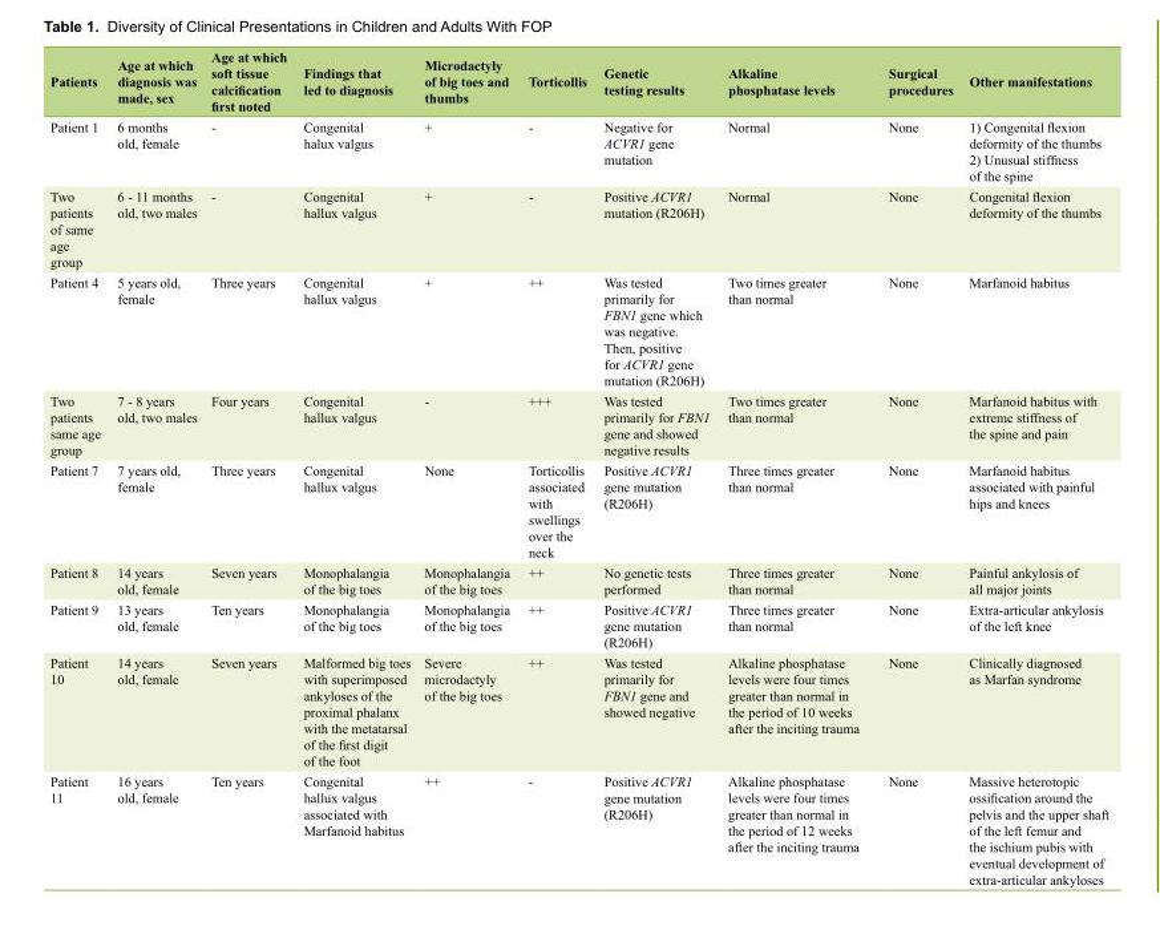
<table><thead><tr><td>Patients</td><td>Age at which diagnosis was made, sex</td><td>Age at which soft tissue calcification first noted</td><td>Findings that led to diagnosis</td><td>Microdactyly of big toes and thumbs</td><td>Torticollis</td><td>Genetic testing results</td><td>Alkaline phosphatase levels</td><td>Surgical procedures</td><td>Other manifestations</td></tr></thead><tbody><tr><td>Patient 1</td><td>6 months old, female</td><td>-</td><td>Congenital halux valgus</td><td>+</td><td>-</td><td>Negative for ACVR1 gene mutation</td><td>Normal</td><td>None</td><td>1) Congenital flexion deformity of the thumbs 2) Unusual stiffness of the spine</td></tr><tr><td>Two patients of same age group</td><td>6 - 11 months old, two males</td><td>-</td><td>Congenital hallux valgus</td><td>+</td><td>-</td><td>Positive ACVR1 mutation (R206H)</td><td>Normal</td><td>None</td><td>Congenital flexion deformity of the thumbs</td></tr><tr><td>Patient 4</td><td>5 years old, female</td><td>Three years</td><td>Congenital hallux valgus</td><td>+</td><td>++</td><td>Was tested primarily for FBN1 gene which was negative. Then, positive for ACVR1 gene mutation (R206H)</td><td>Two times greater than normal</td><td>None</td><td>Marfanoid habitus</td></tr><tr><td>Two patients same age group</td><td>7 - 8 years old, two males</td><td>Four years</td><td>Congenital hallux valgus</td><td>-</td><td>+++</td><td>Was tested primarily for FBN1 gene and showed negative results</td><td>Two times greater than normal</td><td>None</td><td>Marfanoid habitus with extreme stiffness of the spine and pain</td></tr><tr><td>Patient 7</td><td>7 years old, female</td><td>Three years</td><td>Congenital hallux valgus</td><td>None</td><td>Torticollis associated with swellings over the neck</td><td>Positive ACVR1 gene mutation (R206H)</td><td>Three times greater than normal</td><td>None</td><td>Marfanoid habitus associated with painful hips and knees</td></tr><tr><td>Patient 8</td><td>14 years old, female</td><td>Seven years</td><td>Monophalangia of the big toes</td><td>Monophalangia of the big toes</td><td>++</td><td>No genetic tests performed</td><td>Three times greater than normal</td><td>None</td><td>Painful ankylosis of all major joints</td></tr><tr><td>Patient 9</td><td>13 years old, female</td><td>Ten years</td><td>Monophalangia of the big toes</td><td>Monophalangia of the big toes</td><td>++</td><td>Positive ACVR1 gene mutation (R206H)</td><td>Three times greater than normal</td><td>None</td><td>Extra-articular ankylosis of the left knee</td></tr><tr><td>Patient 10</td><td>14 years old, female</td><td>Seven years</td><td>Malformed big toes with superimposed ankyloses of the proximal phalanx with the metatarsal of the first digit of the foot</td><td>Severe microdactyly of the big toes</td><td>++</td><td>Was tested primarily for FBN1 gene and showed negative</td><td>Alkaline phosphatase levels were four times greater than normal in the period of 10 weeks after the inciting trauma</td><td>None</td><td>Clinically diagnosed as Marfan syndrome</td></tr><tr><td>Patient 11</td><td>16 years old, female</td><td>Ten years</td><td>Congenital hallux valgus associated with Marfanoid habitus</td><td>++</td><td>-</td><td>Positive ACVR1 gene mutation (R206H)</td><td>Alkaline phosphatase levels were four times greater than normal in the period of 12 weeks after the inciting trauma</td><td>None</td><td>Massive heterotopic ossification around the pelvis and the upper shaft of the left femur and the ischium pubis with eventual development of extra-articular ankyloses</td></tr></tbody></table>